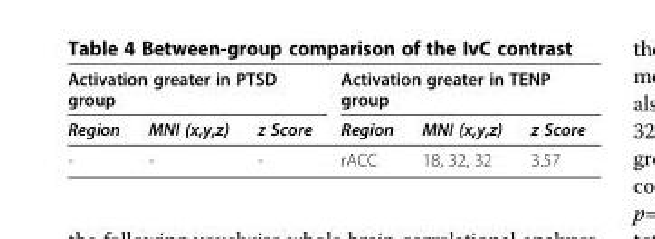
<table><thead><tr><td colspan="3">Activation greater in PTSD group</td><td colspan="3">Activation greater in TENP group</td></tr><tr><td>Region</td><td>MNI (x,y,z)</td><td>z Score</td><td>Region</td><td>MNI (x,y,z)</td><td>z Score</td></tr></thead><tbody><tr><td>-</td><td>-</td><td>-</td><td>rACC</td><td>18, 32, 32</td><td>3.57</td></tr></tbody></table>